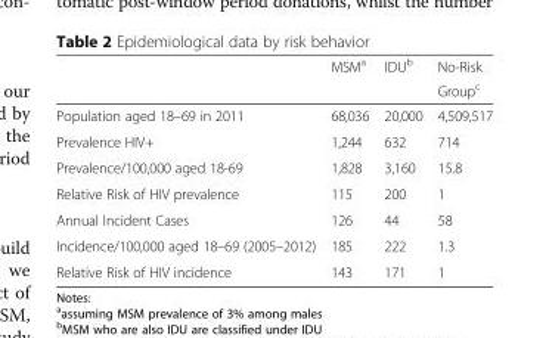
<table><thead><tr><td rowspan="2"></td><td rowspan="2">MSM<sup>a</sup></td><td rowspan="2">IDU<sup>b</sup></td><td rowspan="2">No-Risk Group<sup>c</sup></td></tr><tr></tr></thead><tbody><tr><td>Population aged 18–69 in 2011</td><td>68,036</td><td>20,000</td><td>4,509,517</td></tr><tr><td>Prevalence HIV+</td><td>1,244</td><td>632</td><td>714</td></tr><tr><td>Prevalence/100,000 aged 18-69</td><td>1,828</td><td>3,160</td><td>15.8</td></tr><tr><td>Relative Risk of HIV prevalence</td><td>115</td><td>200</td><td>1</td></tr><tr><td>Annual Incident Cases</td><td>126</td><td>44</td><td>58</td></tr><tr><td>Incidence/100,000 aged 18–69 (2005–2012)</td><td>185</td><td>222</td><td>1.3</td></tr><tr><td>Relative Risk of HIV incidence</td><td>143</td><td>171</td><td>1</td></tr></tbody></table>